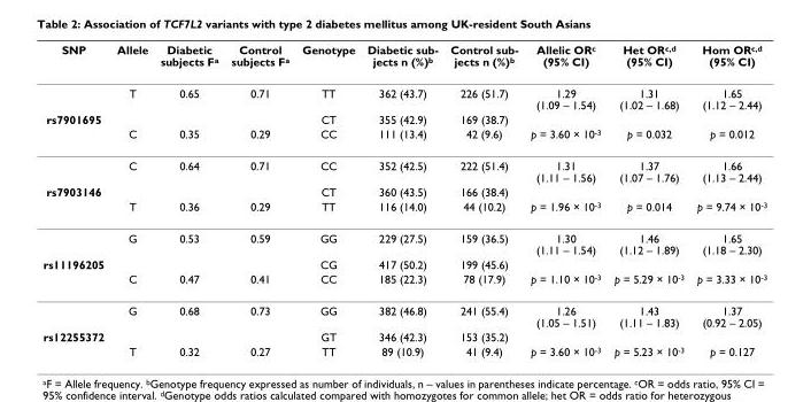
<table><thead><tr><td>SNP</td><td>Allele</td><td>Diabetic subjects F<sup>a</sup></td><td>Control subjects F<sup>a</sup></td><td>Genotype</td><td>Diabetic sub- jects n (%)b</td><td>Control sub- jects n (%)b</td><td>Allelic OR<sup>c</sup> (95% CI)</td><td>Het OR<sup>c,d</sup> (95% CI)</td><td>Hom OR<sup>c,d</sup> (95% CI)</td></tr></thead><tbody><tr><td></td><td>T</td><td>0.65</td><td>0.71</td><td>TT</td><td>362 (43.7)</td><td>226 (51.7)</td><td>1.29 (1.09 – 1.54)</td><td>1.31 (1.02 – 1.68)</td><td>1.65 (1.12 – 2.44)</td></tr><tr><td rowspan="3">rs7901695</td><td></td><td></td><td></td><td>CT</td><td>355 (42.9)</td><td>169 (38.7)</td><td></td><td></td><td></td></tr><tr><td>C</td><td>0.35</td><td>0.29</td><td>CC</td><td>111 (13.4)</td><td>42 (9.6)</td><td>p = 3.60 × 10<sup>-3</sup></td><td>p = 0.032</td><td>p = 0.012</td></tr><tr><td>C</td><td>0.64</td><td>0.71</td><td>CC</td><td>352 (42.5)</td><td>222 (51.4)</td><td>1.31 (1.11 – 1.56)</td><td>1.37 (1.07 – 1.76)</td><td>1.66 (1.13 – 2.44)</td></tr><tr><td rowspan="3">rs7903146</td><td></td><td></td><td></td><td>CT</td><td>360 (43.5)</td><td>166 (38.4)</td><td></td><td></td><td></td></tr><tr><td>T</td><td>0.36</td><td>0.29</td><td>TT</td><td>116 (14.0)</td><td>44 (10.2)</td><td>p = 1.96 × 10<sup>-3</sup></td><td>p = 0.014</td><td>p = 9.74 × 10<sup>-3</sup></td></tr><tr><td>G</td><td>0.53</td><td>0.59</td><td>GG</td><td>229 (27.5)</td><td>159 (36.5)</td><td>1.30 (1.11 – 1.54)</td><td>1.46 (1.12 – 1.89)</td><td>1.65 (1.18 – 2.30)</td></tr><tr><td rowspan="3">rs11196205</td><td></td><td></td><td></td><td>CG</td><td>417 (50.2)</td><td>199 (45.6)</td><td></td><td></td><td></td></tr><tr><td>C</td><td>0.47</td><td>0.41</td><td>CC</td><td>185 (22.3)</td><td>78 (17.9)</td><td>p = 1.10 × 10<sup>-3</sup></td><td>p = 5.29 × 10<sup>-3</sup></td><td>p = 3.33 × 10<sup>-3</sup></td></tr><tr><td>G</td><td>0.68</td><td>0.73</td><td>GG</td><td>382 (46.8)</td><td>241 (55.4)</td><td>1.26 (1.05 – 1.51)</td><td>1.43 (1.11 – 1.83)</td><td>1.37 (0.92 – 2.05)</td></tr><tr><td rowspan="2">rs12255372</td><td></td><td></td><td></td><td>GT</td><td>346 (42.3)</td><td>153 (35.2)</td><td></td><td></td><td></td></tr><tr><td>T</td><td>0.32</td><td>0.27</td><td>TT</td><td>89 (10.9)</td><td>41 (9.4)</td><td>p = 3.60 × 10<sup>-3</sup></td><td>p = 5.23 × 10<sup>-3</sup></td><td>p = 0.127</td></tr></tbody></table>